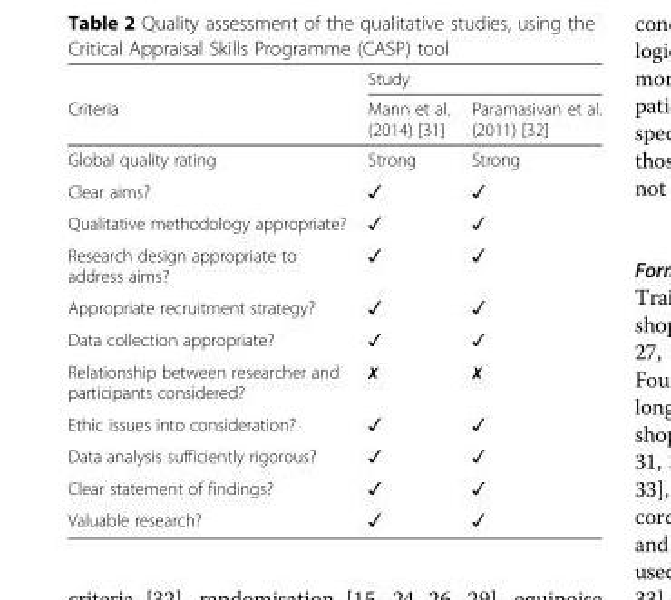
<table><thead><tr><td rowspan="2">Criteria</td><td colspan="2">Study</td></tr><tr><td>Mann et al. (2014) [31]</td><td>Paramasivan et al. (2011) [32]</td></tr></thead><tbody><tr><td>Global quality rating</td><td>Strong</td><td>Strong</td></tr><tr><td>Clear aims?</td><td>✓</td><td>✓</td></tr><tr><td>Qualitative methodology appropriate?</td><td>✓</td><td>✓</td></tr><tr><td>Research design appropriate to address aims?</td><td>✓</td><td>✓</td></tr><tr><td>Appropriate recruitment strategy?</td><td>✓</td><td>✓</td></tr><tr><td>Data collection appropriate?</td><td>✓</td><td>✓</td></tr><tr><td>Relationship between researcher and participants considered?</td><td>✗</td><td>✗</td></tr><tr><td>Ethic issues into consideration?</td><td>✓</td><td>✓</td></tr><tr><td>Data analysis sufficiently rigorous?</td><td>✓</td><td>✓</td></tr><tr><td>Clear statement of findings?</td><td>✓</td><td>✓</td></tr><tr><td>Valuable research?</td><td>✓</td><td>✓</td></tr></tbody></table>